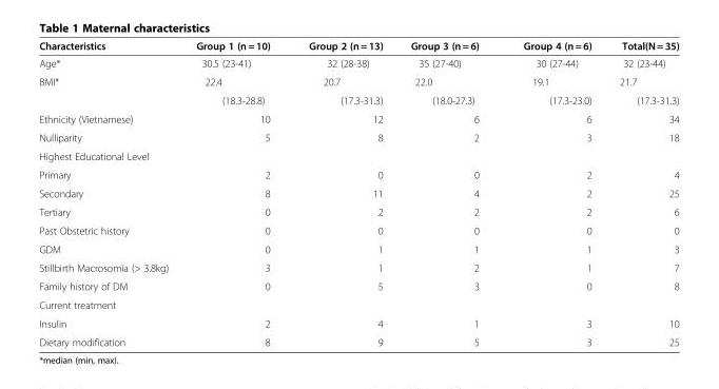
<table><thead><tr><td>Characteristics</td><td>Group 1 (n = 10)</td><td>Group 2 (n = 13)</td><td>Group 3 (n = 6)</td><td>Group 4 (n = 6)</td><td>Total(N = 35)</td></tr></thead><tbody><tr><td>Age*</td><td>30.5 (23-41)</td><td>32 (28-38)</td><td>35 (27-40)</td><td>30 (27-44)</td><td>32 (23-44)</td></tr><tr><td rowspan="2">BMI*</td><td>22.4</td><td>20.7</td><td>22.0</td><td>19.1</td><td>21.7</td></tr><tr><td>(18.3-28.8)</td><td>(17.3-31.3)</td><td>(18.0-27.3)</td><td>(17.3-23.0)</td><td>(17.3-31.3)</td></tr><tr><td>Ethnicity (Vietnamese)</td><td>10</td><td>12</td><td>6</td><td>6</td><td>34</td></tr><tr><td>Nulliparity</td><td>5</td><td>8</td><td>2</td><td>3</td><td>18</td></tr><tr><td colspan="6">Highest Educational Level</td></tr><tr><td>Primary</td><td>2</td><td>0</td><td>0</td><td>2</td><td>4</td></tr><tr><td>Secondary</td><td>8</td><td>11</td><td>4</td><td>2</td><td>25</td></tr><tr><td>Tertiary</td><td>0</td><td>2</td><td>2</td><td>2</td><td>6</td></tr><tr><td>Past Obstetric history</td><td>0</td><td>0</td><td>0</td><td>0</td><td>0</td></tr><tr><td>GDM</td><td>0</td><td>1</td><td>1</td><td>1</td><td>3</td></tr><tr><td>Stillbirth Macrosomia (&gt; 3.8kg)</td><td>3</td><td>1</td><td>2</td><td>1</td><td>7</td></tr><tr><td>Family history of DM</td><td>0</td><td>5</td><td>3</td><td>0</td><td>8</td></tr><tr><td colspan="6">Current treatment</td></tr><tr><td>Insulin</td><td>2</td><td>4</td><td>1</td><td>3</td><td>10</td></tr><tr><td>Dietary modification</td><td>8</td><td>9</td><td>5</td><td>3</td><td>25</td></tr></tbody></table>